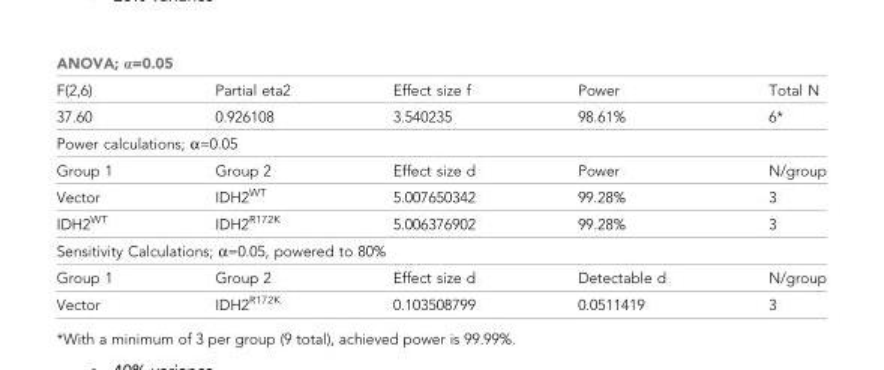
<table><thead><tr><td colspan="5">ANOVA; α=0.05</td></tr><tr><td>F(2,6)</td><td>Partial eta2</td><td>Effect size f</td><td>Power</td><td>Total N</td></tr></thead><tbody><tr><td>37.60</td><td>0.926108</td><td>3.540235</td><td>98.61%</td><td>6*</td></tr><tr><td colspan="5">Power calculations; α=0.05</td></tr><tr><td>Group 1</td><td>Group 2</td><td>Effect size d</td><td>Power</td><td>N/group</td></tr><tr><td>Vector</td><td>IDH2<sup>WT</sup></td><td>5.007650342</td><td>99.28%</td><td>3</td></tr><tr><td>IDH2<sup>WT</sup></td><td>IDH2<sup>R172K</sup></td><td>5.006376902</td><td>99.28%</td><td>3</td></tr><tr><td colspan="5">Sensitivity Calculations; α=0.05, powered to 80%</td></tr><tr><td>Group 1</td><td>Group 2</td><td>Effect size d</td><td>Detectable d</td><td>N/group</td></tr><tr><td>Vector</td><td>IDH2<sup>R172K</sup></td><td>0.103508799</td><td>0.0511419</td><td>3</td></tr></tbody></table>